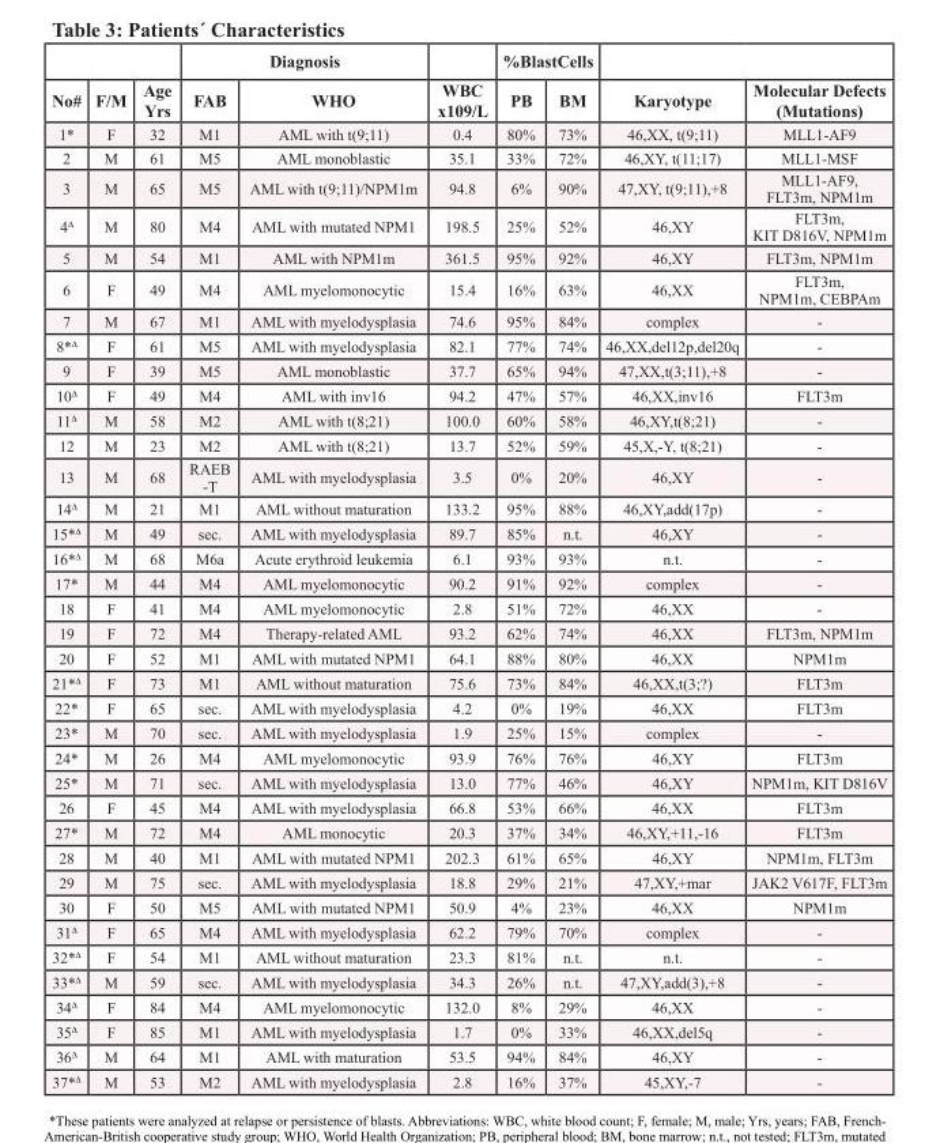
<table><thead><tr><td rowspan="2">No#</td><td rowspan="2">F/M</td><td rowspan="2">Age Yrs</td><td colspan="2">Diagnosis</td><td rowspan="2">WBC x109/L</td><td colspan="2">%BlastCells</td><td rowspan="2">Karyotype</td><td rowspan="2">Molecular Defects (Mutations)</td></tr><tr><td>FAB</td><td>WHO</td><td>PB</td><td>BM</td></tr></thead><tbody><tr><td>1*</td><td>F</td><td>32</td><td>M1</td><td>AML with t(9;11)</td><td>0.4</td><td>80%</td><td>73%</td><td>46,XX, t(9;11)</td><td>MLL1-AF9</td></tr><tr><td>2</td><td>M</td><td>61</td><td>M5</td><td>AML monoblastic</td><td>35.1</td><td>33%</td><td>72%</td><td>46,XY, t(11;17)</td><td>MLL1-MSF</td></tr><tr><td>3</td><td>M</td><td>65</td><td>M5</td><td>AML with t(9;11)/NPM1m</td><td>94.8</td><td>6%</td><td>90%</td><td>47,XY, t(9;11),+8</td><td>MLL1-AF9, FLT3m, NPM1m</td></tr><tr><td>4∆</td><td>M</td><td>80</td><td>M4</td><td>AML with mutated NPM1</td><td>198.5</td><td>25%</td><td>52%</td><td>46,XY</td><td>FLT3m, KIT D816V, NPM1m</td></tr><tr><td>5</td><td>M</td><td>54</td><td>M1</td><td>AML with NPM1m</td><td>361.5</td><td>95%</td><td>92%</td><td>46,XY</td><td>FLT3m, NPM1m</td></tr><tr><td>6</td><td>F</td><td>49</td><td>M4</td><td>AML myelomonocytic</td><td>15.4</td><td>16%</td><td>63%</td><td>46,XX</td><td>FLT3m, NPM1m, CEBPAm</td></tr><tr><td>7</td><td>M</td><td>67</td><td>M1</td><td>AML with myelodysplasia</td><td>74.6</td><td>95%</td><td>84%</td><td>complex</td><td>-</td></tr><tr><td>8*∆</td><td>F</td><td>61</td><td>M5</td><td>AML with myelodysplasia</td><td>82.1</td><td>77%</td><td>74%</td><td>46,XX,del12p,del20q</td><td>-</td></tr><tr><td>9</td><td>F</td><td>39</td><td>M5</td><td>AML monoblastic</td><td>37.7</td><td>65%</td><td>94%</td><td>47,XX,t(3;11),+8</td><td>-</td></tr><tr><td>10∆</td><td>F</td><td>49</td><td>M4</td><td>AML with inv16</td><td>94.2</td><td>47%</td><td>57%</td><td>46,XX,inv16</td><td>FLT3m</td></tr><tr><td>11∆</td><td>M</td><td>58</td><td>M2</td><td>AML with t(8;21)</td><td>100.0</td><td>60%</td><td>58%</td><td>46,XY,t(8;21)</td><td>-</td></tr><tr><td>12</td><td>M</td><td>23</td><td>M2</td><td>AML with t(8;21)</td><td>13.7</td><td>52%</td><td>59%</td><td>45,X,-Y, t(8;21)</td><td>-</td></tr><tr><td>13</td><td>M</td><td>68</td><td>RAEB -T</td><td>AML with myelodysplasia</td><td>3.5</td><td>0%</td><td>20%</td><td>46,XY</td><td>-</td></tr><tr><td>14∆</td><td>M</td><td>21</td><td>M1</td><td>AML without maturation</td><td>133.2</td><td>95%</td><td>88%</td><td>46,XY,add(17p)</td><td>-</td></tr><tr><td>15*∆</td><td>M</td><td>49</td><td>sec.</td><td>AML with myelodysplasia</td><td>89.7</td><td>85%</td><td>n.t.</td><td>46,XY</td><td>-</td></tr><tr><td>16*∆</td><td>M</td><td>68</td><td>M6a</td><td>Acute erythroid leukemia</td><td>6.1</td><td>93%</td><td>93%</td><td>n.t.</td><td>-</td></tr><tr><td>17*</td><td>M</td><td>44</td><td>M4</td><td>AML myelomonocytic</td><td>90.2</td><td>91%</td><td>92%</td><td>complex</td><td>-</td></tr><tr><td>18</td><td>F</td><td>41</td><td>M4</td><td>AML myelomonocytic</td><td>2.8</td><td>51%</td><td>72%</td><td>46,XX</td><td>-</td></tr><tr><td>19</td><td>F</td><td>72</td><td>M4</td><td>Therapy-related AML</td><td>93.2</td><td>62%</td><td>74%</td><td>46,XX</td><td>FLT3m, NPM1m</td></tr><tr><td>20</td><td>F</td><td>52</td><td>M1</td><td>AML with mutated NPM1</td><td>64.1</td><td>88%</td><td>80%</td><td>46,XX</td><td>NPM1m</td></tr><tr><td>21*∆</td><td>F</td><td>73</td><td>M1</td><td>AML without maturation</td><td>75.6</td><td>73%</td><td>84%</td><td>46,XX,t(3;?)</td><td>FLT3m</td></tr><tr><td>22*</td><td>F</td><td>65</td><td>sec.</td><td>AML with myelodysplasia</td><td>4.2</td><td>0%</td><td>19%</td><td>46,XX</td><td>FLT3m</td></tr><tr><td>23*</td><td>M</td><td>70</td><td>sec.</td><td>AML with myelodysplasia</td><td>1.9</td><td>25%</td><td>15%</td><td>complex</td><td>-</td></tr><tr><td>24*</td><td>M</td><td>26</td><td>M4</td><td>AML myelomonocytic</td><td>93.9</td><td>76%</td><td>76%</td><td>46,XY</td><td>FLT3m</td></tr><tr><td>25*</td><td>M</td><td>71</td><td>sec.</td><td>AML with myelodysplasia</td><td>13.0</td><td>77%</td><td>46%</td><td>46,XY</td><td>NPM1m, KIT D816V</td></tr><tr><td>26</td><td>F</td><td>45</td><td>M4</td><td>AML with myelodysplasia</td><td>66.8</td><td>53%</td><td>66%</td><td>46,XX</td><td>FLT3m</td></tr><tr><td>27*</td><td>M</td><td>72</td><td>M4</td><td>AML monocytic</td><td>20.3</td><td>37%</td><td>34%</td><td>46,XY,+11,-16</td><td>FLT3m</td></tr><tr><td>28</td><td>M</td><td>40</td><td>M1</td><td>AML with mutated NPM1</td><td>202.3</td><td>61%</td><td>65%</td><td>46,XY</td><td>NPM1m, FLT3m</td></tr><tr><td>29</td><td>M</td><td>75</td><td>sec.</td><td>AML with myelodysplasia</td><td>18.8</td><td>29%</td><td>21%</td><td>47,XY,+mar</td><td>JAK2 V617F, FLT3m</td></tr><tr><td>30</td><td>F</td><td>50</td><td>M5</td><td>AML with mutated NPM1</td><td>50.9</td><td>4%</td><td>23%</td><td>46,XX</td><td>NPM1m</td></tr><tr><td>31∆</td><td>F</td><td>65</td><td>M4</td><td>AML with myelodysplasia</td><td>62.2</td><td>79%</td><td>70%</td><td>complex</td><td>-</td></tr><tr><td>32*∆</td><td>F</td><td>54</td><td>M1</td><td>AML without maturation</td><td>23.3</td><td>81%</td><td>n.t.</td><td>n.t.</td><td>-</td></tr><tr><td>33*∆</td><td>M</td><td>59</td><td>sec.</td><td>AML with myelodysplasia</td><td>34.3</td><td>26%</td><td>n.t.</td><td>47,XY,add(3),+8</td><td>-</td></tr><tr><td>34∆</td><td>F</td><td>84</td><td>M4</td><td>AML myelomonocytic</td><td>132.0</td><td>8%</td><td>29%</td><td>46,XX</td><td>-</td></tr><tr><td>35∆</td><td>F</td><td>85</td><td>M1</td><td>AML with myelodysplasia</td><td>1.7</td><td>0%</td><td>33%</td><td>46,XX,del5q</td><td>-</td></tr><tr><td>36∆</td><td>M</td><td>64</td><td>M1</td><td>AML with maturation</td><td>53.5</td><td>94%</td><td>84%</td><td>46,XY</td><td>-</td></tr><tr><td>37*∆</td><td>M</td><td>53</td><td>M2</td><td>AML with myelodysplasia</td><td>2.8</td><td>16%</td><td>37%</td><td>45,XY,-7</td><td>-</td></tr></tbody></table>